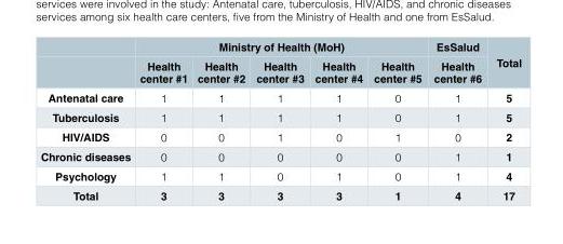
<table><thead><tr><td rowspan="2"></td><td colspan="5">Ministry of Health (MoH)</td><td rowspan="2">EsSalud Health center #6</td><td rowspan="2">Total</td></tr><tr><td>Health center #1</td><td>Health center #2</td><td>Health center #3</td><td>Health center #4</td><td>Health center #5</td></tr></thead><tbody><tr><td>Antenatal care</td><td>1</td><td>1</td><td>1</td><td>1</td><td>0</td><td>1</td><td>5</td></tr><tr><td>Tuberculosis</td><td>1</td><td>1</td><td>1</td><td>1</td><td>0</td><td>1</td><td>5</td></tr><tr><td>HIV/AIDS</td><td>0</td><td>0</td><td>1</td><td>0</td><td>1</td><td>0</td><td>2</td></tr><tr><td>Chronic diseases</td><td>0</td><td>0</td><td>0</td><td>0</td><td>0</td><td>1</td><td>1</td></tr><tr><td>Psychology</td><td>1</td><td>1</td><td>0</td><td>1</td><td>0</td><td>1</td><td>4</td></tr><tr><td>Total</td><td>3</td><td>3</td><td>3</td><td>3</td><td>1</td><td>4</td><td>17</td></tr></tbody></table>